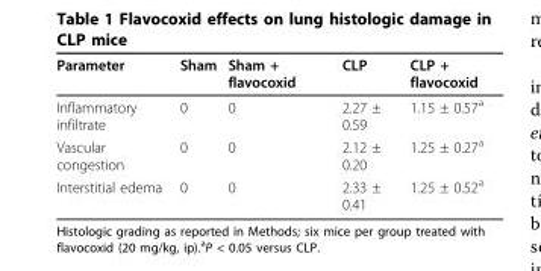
<table><thead><tr><td>Parameter</td><td>Sham</td><td>Sham + flavocoxid</td><td>CLP</td><td>CLP + flavocoxid</td></tr></thead><tbody><tr><td>Inflammatory infiltrate</td><td>0</td><td>0</td><td>2.27 ± 0.59</td><td>1.15 ± 0.57a</td></tr><tr><td>Vascular congestion</td><td>0</td><td>0</td><td>2.12 ± 0.20</td><td>1.25 ± 0.27a</td></tr><tr><td>Interstitial edema</td><td>0</td><td>0</td><td>2.33 ± 0.41</td><td>1.25 ± 0.52a</td></tr></tbody></table>